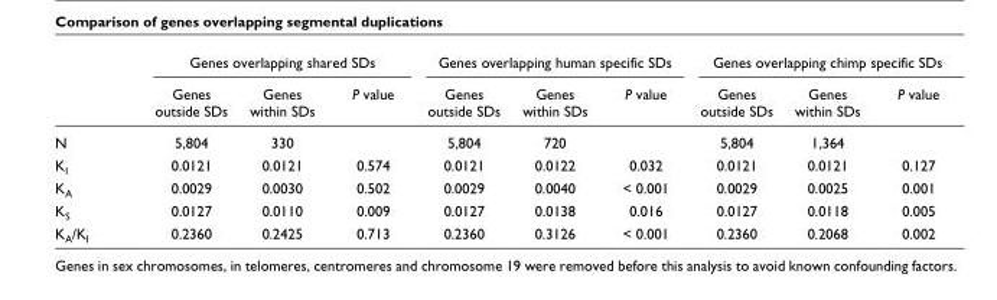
<table><thead><tr><td rowspan="2"></td><td colspan="3">Genes overlapping shared SDs</td><td colspan="3">Genes overlapping human specific SDs</td><td colspan="3">Genes overlapping chimp specific SDs</td></tr><tr><td>Genes outside SDs</td><td>Genes within SDs</td><td>P value</td><td>Genes outside SDs</td><td>Genes within SDs</td><td>P value</td><td>Genes outside SDs</td><td>Genes within SDs</td><td>P value</td></tr></thead><tbody><tr><td>N</td><td>5,804</td><td>330</td><td></td><td>5,804</td><td>720</td><td></td><td>5,804</td><td>1,364</td><td></td></tr><tr><td>K<sub>I</sub></td><td>0.0121</td><td>0.0121</td><td>0.574</td><td>0.0121</td><td>0.0122</td><td>0.032</td><td>0.0121</td><td>0.0121</td><td>0.127</td></tr><tr><td>K<sub>A</sub></td><td>0.0029</td><td>0.0030</td><td>0.502</td><td>0.0029</td><td>0.0040</td><td>&lt; 0.001</td><td>0.0029</td><td>0.0025</td><td>0.001</td></tr><tr><td>K<sub>S</sub></td><td>0.0127</td><td>0.0110</td><td>0.009</td><td>0.0127</td><td>0.0138</td><td>0.016</td><td>0.0127</td><td>0.0118</td><td>0.005</td></tr><tr><td>K<sub>A</sub>/K<sub>I</sub></td><td>0.2360</td><td>0.2425</td><td>0.713</td><td>0.2360</td><td>0.3126</td><td>&lt; 0.001</td><td>0.2360</td><td>0.2068</td><td>0.002</td></tr></tbody></table>